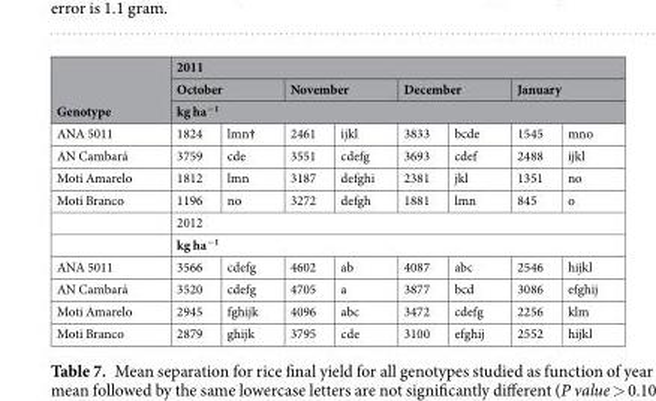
<table><thead><tr><td rowspan="4">Genotype ANA 5011</td><td colspan="8">2011</td></tr><tr><td colspan="2">October</td><td colspan="2">November</td><td colspan="2">December</td><td colspan="2">January</td></tr><tr><td colspan="8">kg ha−1</td></tr><tr><td>1824</td><td>lmn†</td><td>2461</td><td>ijkl</td><td>3833</td><td>bcde</td><td>1545</td><td>mno</td></tr></thead><tbody><tr><td>AN Cambará</td><td>3759</td><td>cde</td><td>3551</td><td>cdefg</td><td>3693</td><td>cdef</td><td>2488</td><td>ijkl</td></tr><tr><td>Moti Amarelo</td><td>1812</td><td>lmn</td><td>3187</td><td>defghi</td><td>2381</td><td>jkl</td><td>1351</td><td>no</td></tr><tr><td rowspan="3">Moti Branco</td><td>1196</td><td>no</td><td>3272</td><td>defgh</td><td>1881</td><td>lmn</td><td>845</td><td>o</td></tr><tr><td colspan="8">2012</td></tr><tr><td colspan="8">kg ha<sup>−1</sup></td></tr><tr><td>ANA 5011</td><td>3566</td><td>cdefg</td><td>4602</td><td>ab</td><td>4087</td><td>abc</td><td>2546</td><td>hijkl</td></tr><tr><td>AN Cambará</td><td>3520</td><td>cdefg</td><td>4705</td><td>a</td><td>3877</td><td>bcd</td><td>3086</td><td>efghij</td></tr><tr><td>Moti Amarelo</td><td>2945</td><td>fghijk</td><td>4096</td><td>abc</td><td>3472</td><td>cdefg</td><td>2256</td><td>klm</td></tr><tr><td>Moti Branco</td><td>2879</td><td>ghijk</td><td>3795</td><td>cde</td><td>3100</td><td>efghij</td><td>2552</td><td>hijkl</td></tr></tbody></table>